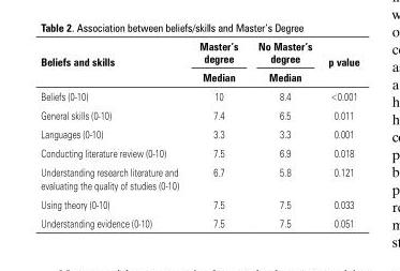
<table><thead><tr><td rowspan="2">Beliefs and skills</td><td rowspan="2">Master’s degree Median</td><td rowspan="2">No Master’s degree Median</td><td rowspan="2">p value</td></tr><tr></tr></thead><tbody><tr><td>Beliefs (0-10)</td><td>10</td><td>8.4</td><td>&lt;0.001</td></tr><tr><td>General skills (0-10)</td><td>7.4</td><td>6.5</td><td>0.011</td></tr><tr><td>Languages (0-10)</td><td>3.3</td><td>3.3</td><td>0.001</td></tr><tr><td>Conducting literature review (0-10)</td><td>7.5</td><td>6.9</td><td>0.018</td></tr><tr><td>Understanding research literature and evaluating the quality of studies (0-10)</td><td>6.7</td><td>5.8</td><td>0.121</td></tr><tr><td>Using theory (0-10)</td><td>7.5</td><td>7.5</td><td>0.033</td></tr><tr><td>Understanding evidence (0-10)</td><td>7.5</td><td>7.5</td><td>0.051</td></tr></tbody></table>